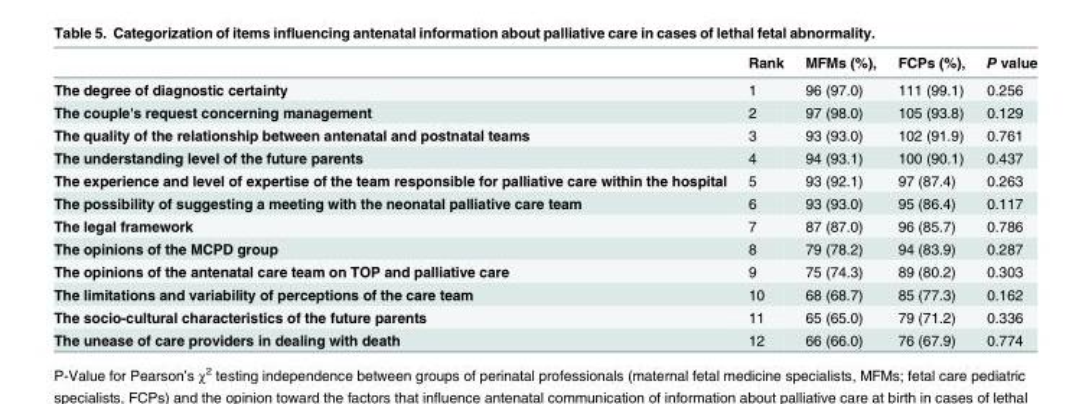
<table><thead><tr><td></td><td>Rank</td><td>MFMs (%),</td><td>FCPs (%),</td><td>P value</td></tr></thead><tbody><tr><td>The degree of diagnostic certainty</td><td>1</td><td>96 (97.0)</td><td>111 (99.1)</td><td>0.256</td></tr><tr><td>The couple&#x27;s request concerning management</td><td>2</td><td>97 (98.0)</td><td>105 (93.8)</td><td>0.129</td></tr><tr><td>The quality of the relationship between antenatal and postnatal teams</td><td>3</td><td>93 (93.0)</td><td>102 (91.9)</td><td>0.761</td></tr><tr><td>The understanding level of the future parents</td><td>4</td><td>94 (93.1)</td><td>100 (90.1)</td><td>0.437</td></tr><tr><td>The experience and level of expertise of the team responsible for palliative care within the hospital</td><td>5</td><td>93 (92.1)</td><td>97 (87.4)</td><td>0.263</td></tr><tr><td>The possibility of suggesting a meeting with the neonatal palliative care team</td><td>6</td><td>93 (93.0)</td><td>95 (86.4)</td><td>0.117</td></tr><tr><td>The legal framework</td><td>7</td><td>87 (87.0)</td><td>96 (85.7)</td><td>0.786</td></tr><tr><td>The opinions of the MCPD group</td><td>8</td><td>79 (78.2)</td><td>94 (83.9)</td><td>0.287</td></tr><tr><td>The opinions of the antenatal care team on TOP and palliative care</td><td>9</td><td>75 (74.3)</td><td>89 (80.2)</td><td>0.303</td></tr><tr><td>The limitations and variability of perceptions of the care team</td><td>10</td><td>68 (68.7)</td><td>85 (77.3)</td><td>0.162</td></tr><tr><td>The socio-cultural characteristics of the future parents</td><td>11</td><td>65 (65.0)</td><td>79 (71.2)</td><td>0.336</td></tr><tr><td>The unease of care providers in dealing with death</td><td>12</td><td>66 (66.0)</td><td>76 (67.9)</td><td>0.774</td></tr></tbody></table>